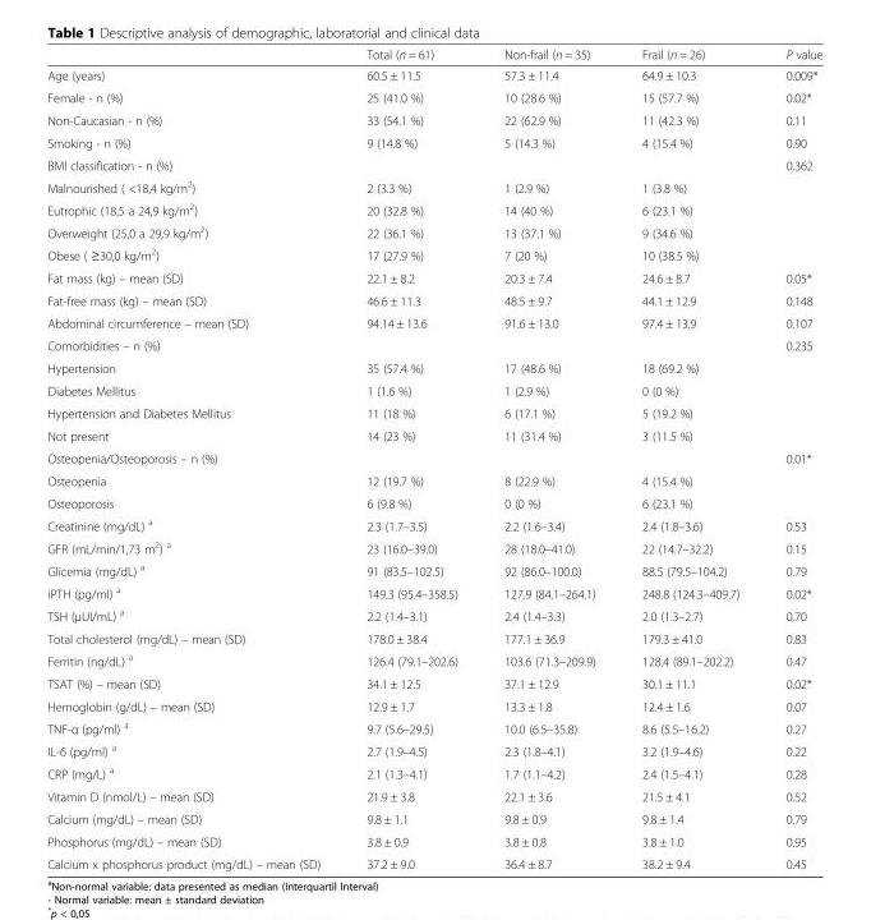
<table><thead><tr><td></td><td>Total (n = 61)</td><td>Non-frail (n = 35)</td><td>Frail (n = 26)</td><td>P value</td></tr></thead><tbody><tr><td>Age (years)</td><td>60.5 ± 11.5</td><td>57.3 ± 11.4</td><td>64.9 ± 10.3</td><td>0.009*</td></tr><tr><td>Female - n (%)</td><td>25 (41.0 %)</td><td>10 (28.6 %)</td><td>15 (57.7 %)</td><td>0.02*</td></tr><tr><td>Non-Caucasian - n (%)</td><td>33 (54.1 %)</td><td>22 (62.9 %)</td><td>11 (42.3 %)</td><td>0.11</td></tr><tr><td>Smoking - n (%)</td><td>9 (14.8 %)</td><td>5 (14.3 %)</td><td>4 (15.4 %)</td><td>0.90</td></tr><tr><td>BMI classification - n (%)</td><td></td><td></td><td></td><td>0.362</td></tr><tr><td>Malnourished ( &lt;18,4 kg/m<sup>2</sup>)</td><td>2 (3.3 %)</td><td>1 (2.9 %)</td><td>1 (3.8 %)</td><td></td></tr><tr><td>Eutrophic (18,5 a 24,9 kg/m<sup>2</sup>)</td><td>20 (32.8 %)</td><td>14 (40 %)</td><td>6 (23.1 %)</td><td></td></tr><tr><td>Overweight (25,0 a 29,9 kg/m<sup>2</sup>)</td><td>22 (36.1 %)</td><td>13 (37.1 %)</td><td>9 (34.6 %)</td><td></td></tr><tr><td>Obese ( ≥30,0 kg/m<sup>2</sup>)</td><td>17 (27.9 %)</td><td>7 (20 %)</td><td>10 (38.5 %)</td><td></td></tr><tr><td>Fat mass (kg) – mean (SD)</td><td>22.1 ± 8.2</td><td>20.3 ± 7.4</td><td>24.6 ± 8.7</td><td>0.05*</td></tr><tr><td>Fat-free mass (kg) – mean (SD)</td><td>46.6 ± 11.3</td><td>48.5 ± 9.7</td><td>44.1 ± 12.9</td><td>0.148</td></tr><tr><td>Abdominal circumference – mean (SD)</td><td>94.14 ± 13.6</td><td>91.6 ± 13.0</td><td>97.4 ± 13.9</td><td>0.107</td></tr><tr><td>Comorbidities – n (%)</td><td></td><td></td><td></td><td>0.235</td></tr><tr><td>Hypertension</td><td>35 (57.4 %)</td><td>17 (48.6 %)</td><td>18 (69.2 %)</td><td></td></tr><tr><td>Diabetes Mellitus</td><td>1 (1.6 %)</td><td>1 (2.9 %)</td><td>0 (0 %)</td><td></td></tr><tr><td>Hypertension and Diabetes Mellitus</td><td>11 (18 %)</td><td>6 (17.1 %)</td><td>5 (19.2 %)</td><td></td></tr><tr><td>Not present</td><td>14 (23 %)</td><td>11 (31.4 %)</td><td>3 (11.5 %)</td><td></td></tr><tr><td>Osteopenia/Osteoporosis – n (%)</td><td></td><td></td><td></td><td>0.01*</td></tr><tr><td>Osteopenia</td><td>12 (19.7 %)</td><td>8 (22.9 %)</td><td>4 (15.4 %)</td><td></td></tr><tr><td>Osteoporosis</td><td>6 (9.8 %)</td><td>0 (0 %)</td><td>6 (23.1 %)</td><td></td></tr><tr><td>Creatinine (mg/dL) <sup>a</sup></td><td>2.3 (1.7–3.5)</td><td>2.2 (1.6–3.4)</td><td>2.4 (1.8–3.6)</td><td>0.53</td></tr><tr><td>GFR (mL/min/1,73 m<sup>2</sup>) <sup>a</sup></td><td>23 (16.0–39.0)</td><td>28 (18.0–41.0)</td><td>22 (14.7–32.2)</td><td>0.15</td></tr><tr><td>Glicemia (mg/dL) <sup>a</sup></td><td>91 (83.5–102.5)</td><td>92 (86.0–100.0)</td><td>88.5 (79.5–104.2)</td><td>0.79</td></tr><tr><td>iPTH (pg/ml) <sup>a</sup></td><td>149.3 (95.4–358.5)</td><td>127.9 (84.1–264.1)</td><td>248.8 (124.3–409.7)</td><td>0.02*</td></tr><tr><td>TSH (μUI/mL) <sup>a</sup></td><td>2.2 (1.4–3.1)</td><td>2.4 (1.4–3.3)</td><td>2.0 (1.3–2.7)</td><td>0.70</td></tr><tr><td>Total cholesterol (mg/dL) – mean (SD)</td><td>178.0 ± 38.4</td><td>177.1 ± 36.9</td><td>179.3 ± 41.0</td><td>0.83</td></tr><tr><td>Ferritin (ng/dL) <sup>a</sup></td><td>126.4 (79.1–202.6)</td><td>103.6 (71.3–209.9)</td><td>128.4 (89.1–202.2)</td><td>0.47</td></tr><tr><td>TSAT (%) – mean (SD)</td><td>34.1 ± 12.5</td><td>37.1 ± 12.9</td><td>30.1 ± 11.1</td><td>0.02*</td></tr><tr><td>Hemoglobin (g/dL) – mean (SD)</td><td>12.9 ± 1.7</td><td>13.3 ± 1.8</td><td>12.4 ± 1.6</td><td>0.07</td></tr><tr><td>TNF-α (pg/ml) <sup>a</sup></td><td>9.7 (5.6–29.5)</td><td>10.0 (6.5–35.8)</td><td>8.6 (5.5–16.2)</td><td>0.27</td></tr><tr><td>IL-6 (pg/ml) <sup>a</sup></td><td>2.7 (1.9–4.5)</td><td>2.3 (1.8–4.1)</td><td>3.2 (1.9–4.6)</td><td>0.22</td></tr><tr><td>CRP (mg/L) <sup>a</sup></td><td>2.1 (1.3–4.1)</td><td>1.7 (1.1–4.2)</td><td>2.4 (1.5–4.1)</td><td>0.28</td></tr><tr><td>Vitamin D (nmol/L) – mean (SD)</td><td>21.9 ± 3.8</td><td>22.1 ± 3.6</td><td>21.5 ± 4.1</td><td>0.52</td></tr><tr><td>Calcium (mg/dL) – mean (SD)</td><td>9.8 ± 1.1</td><td>9.8 ± 0.9</td><td>9.8 ± 1.4</td><td>0.79</td></tr><tr><td>Phosphorus (mg/dL) – mean (SD)</td><td>3.8 ± 0.9</td><td>3.8 ± 0.8</td><td>3.8 ± 1.0</td><td>0.95</td></tr><tr><td>Calcium x phosphorus product (mg/dL) – mean (SD)</td><td>37.2 ± 9.0</td><td>36.4 ± 8.7</td><td>38.2 ± 9.4</td><td>0.45</td></tr></tbody></table>